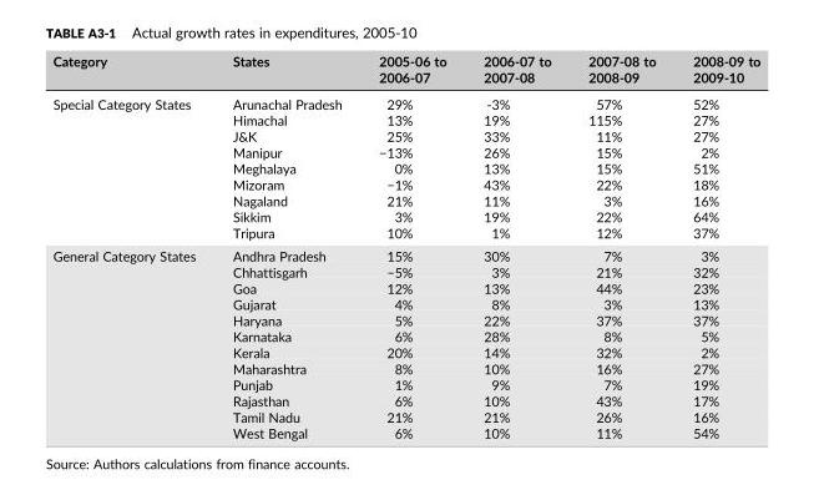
<table><thead><tr><td>Category</td><td>States</td><td>2005‐06 to 2006‐07</td><td>2006‐07 to 2007‐08</td><td>2007‐08 to 2008‐09</td><td>2008‐09 to 2009‐10</td></tr></thead><tbody><tr><td rowspan="9">Special Category States</td><td>Arunachal Pradesh</td><td>29%</td><td>‐3%</td><td>57%</td><td>52%</td></tr><tr><td>Himachal</td><td>13%</td><td>19%</td><td>115%</td><td>27%</td></tr><tr><td>J&amp;K</td><td>25%</td><td>33%</td><td>11%</td><td>27%</td></tr><tr><td>Manipur</td><td>−13%</td><td>26%</td><td>15%</td><td>2%</td></tr><tr><td>Meghalaya</td><td>0%</td><td>13%</td><td>15%</td><td>51%</td></tr><tr><td>Mizoram</td><td>−1%</td><td>43%</td><td>22%</td><td>18%</td></tr><tr><td>Nagaland</td><td>21%</td><td>11%</td><td>3%</td><td>16%</td></tr><tr><td>Sikkim</td><td>3%</td><td>19%</td><td>22%</td><td>64%</td></tr><tr><td>Tripura</td><td>10%</td><td>1%</td><td>12%</td><td>37%</td></tr><tr><td rowspan="12">General Category States</td><td>Andhra Pradesh</td><td>15%</td><td>30%</td><td>7%</td><td>3%</td></tr><tr><td>Chhattisgarh</td><td>−5%</td><td>3%</td><td>21%</td><td>32%</td></tr><tr><td>Goa</td><td>12%</td><td>13%</td><td>44%</td><td>23%</td></tr><tr><td>Gujarat</td><td>4%</td><td>8%</td><td>3%</td><td>13%</td></tr><tr><td>Haryana</td><td>5%</td><td>22%</td><td>37%</td><td>37%</td></tr><tr><td>Karnataka</td><td>6%</td><td>28%</td><td>8%</td><td>5%</td></tr><tr><td>Kerala</td><td>20%</td><td>14%</td><td>32%</td><td>2%</td></tr><tr><td>Maharashtra</td><td>8%</td><td>10%</td><td>16%</td><td>27%</td></tr><tr><td>Punjab</td><td>1%</td><td>9%</td><td>7%</td><td>19%</td></tr><tr><td>Rajasthan</td><td>6%</td><td>10%</td><td>43%</td><td>17%</td></tr><tr><td>Tamil Nadu</td><td>21%</td><td>21%</td><td>26%</td><td>16%</td></tr><tr><td>West Bengal</td><td>6%</td><td>10%</td><td>11%</td><td>54%</td></tr></tbody></table>